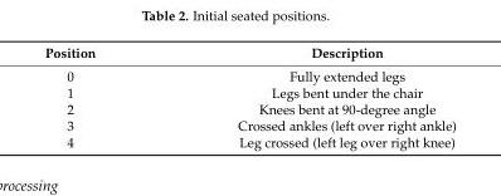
<table><thead><tr><td>Position</td><td>Description</td></tr></thead><tbody><tr><td>0</td><td>Fully extended legs</td></tr><tr><td>1</td><td>Legs bent under the chair</td></tr><tr><td>2</td><td>Knees bent at 90-degree angle</td></tr><tr><td>3</td><td>Crossed ankles (left over right ankle)</td></tr><tr><td>4</td><td>Leg crossed (left leg over right knee)</td></tr></tbody></table>